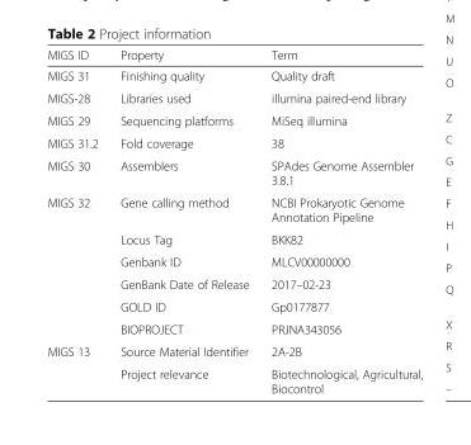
<table><thead><tr><td>MIGS ID</td><td>Property</td><td>Term</td></tr></thead><tbody><tr><td>MIGS 31</td><td>Finishing quality</td><td>Quality draft</td></tr><tr><td>MIGS-28</td><td>Libraries used</td><td>illumina paired-end library</td></tr><tr><td>MIGS 29</td><td>Sequencing platforms</td><td>MiSeq illumina</td></tr><tr><td>MIGS 31.2</td><td>Fold coverage</td><td>38</td></tr><tr><td>MIGS 30</td><td>Assemblers</td><td>SPAdes Genome Assembler 3.8.1</td></tr><tr><td rowspan="6">MIGS 32</td><td>Gene calling method</td><td>NCBI Prokaryotic Genome Annotation Pipeline</td></tr><tr><td>Locus Tag</td><td>BKK82</td></tr><tr><td>Genbank ID</td><td>MLCV00000000</td></tr><tr><td>GenBank Date of Release</td><td>2017–02-23</td></tr><tr><td>GOLD ID</td><td>Gp0177877</td></tr><tr><td>BIOPROJECT</td><td>PRJNA343056</td></tr><tr><td rowspan="2">MIGS 13</td><td>Source Material Identifier</td><td>2A-2B</td></tr><tr><td>Project relevance</td><td>Biotechnological, Agricultural, Biocontrol</td></tr></tbody></table>